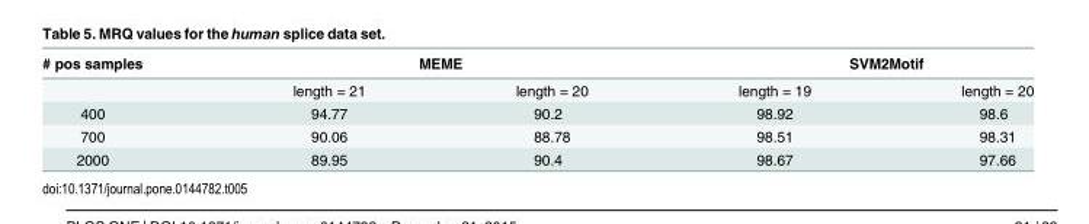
<table><thead><tr><td rowspan="2"># pos samples</td><td colspan="2">MEME</td><td colspan="2">SVM2Motif</td></tr><tr><td>length = 21</td><td>length = 20</td><td>length = 19</td><td>length = 20</td></tr></thead><tbody><tr><td>400</td><td>94.77</td><td>90.2</td><td>98.92</td><td>98.6</td></tr><tr><td>700</td><td>90.06</td><td>88.78</td><td>98.51</td><td>98.31</td></tr><tr><td>2000</td><td>89.95</td><td>90.4</td><td>98.67</td><td>97.66</td></tr></tbody></table>